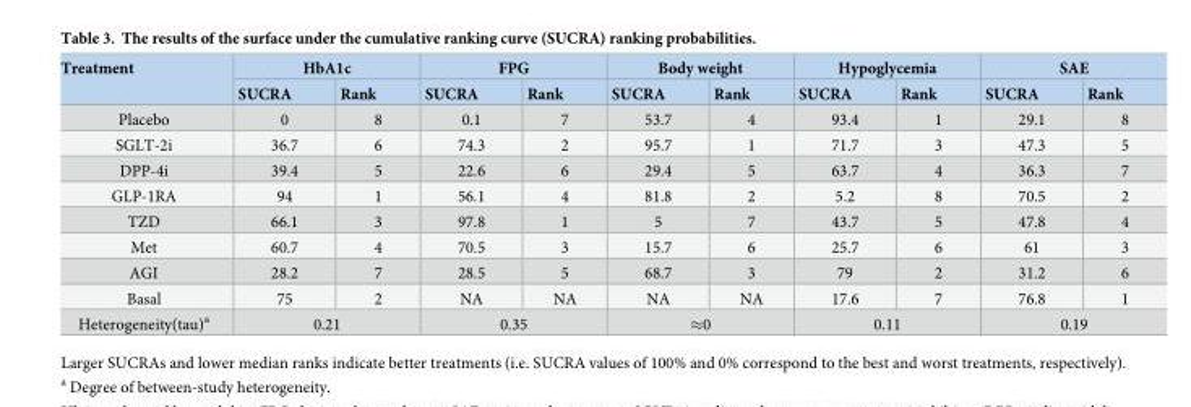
<table><thead><tr><td rowspan="2">Treatment</td><td colspan="2">HbA1c</td><td colspan="2">FPG</td><td colspan="2">Body weight</td><td colspan="2">Hypoglycemia</td><td colspan="2">SAE</td></tr><tr><td>SUCRA</td><td>Rank</td><td>SUCRA</td><td>Rank</td><td>SUCRA</td><td>Rank</td><td>SUCRA</td><td>Rank</td><td>SUCRA</td><td>Rank</td></tr></thead><tbody><tr><td>Placebo</td><td>0</td><td>8</td><td>0.1</td><td>7</td><td>53.7</td><td>4</td><td>93.4</td><td>1</td><td>29.1</td><td>8</td></tr><tr><td>SGLT-2i</td><td>36.7</td><td>6</td><td>74.3</td><td>2</td><td>95.7</td><td>1</td><td>71.7</td><td>3</td><td>47.3</td><td>5</td></tr><tr><td>DPP-4i</td><td>39.4</td><td>5</td><td>22.6</td><td>6</td><td>29.4</td><td>5</td><td>63.7</td><td>4</td><td>36.3</td><td>7</td></tr><tr><td>GLP-1RA</td><td>94</td><td>1</td><td>56.1</td><td>4</td><td>81.8</td><td>2</td><td>5.2</td><td>8</td><td>70.5</td><td>2</td></tr><tr><td>TZD</td><td>66.1</td><td>3</td><td>97.8</td><td>1</td><td>5</td><td>7</td><td>43.7</td><td>5</td><td>47.8</td><td>4</td></tr><tr><td>Met</td><td>60.7</td><td>4</td><td>70.5</td><td>3</td><td>15.7</td><td>6</td><td>25.7</td><td>6</td><td>61</td><td>3</td></tr><tr><td>AGI</td><td>28.2</td><td>7</td><td>28.5</td><td>5</td><td>68.7</td><td>3</td><td>79</td><td>2</td><td>31.2</td><td>6</td></tr><tr><td>Basal</td><td>75</td><td>2</td><td>NA</td><td>NA</td><td>NA</td><td>NA</td><td>17.6</td><td>7</td><td>76.8</td><td>1</td></tr><tr><td>Heterogeneity(tau)<sup>a</sup></td><td colspan="2">0.21</td><td colspan="2">0.35</td><td colspan="2">≈0</td><td colspan="2">0.11</td><td colspan="2">0.19</td></tr></tbody></table>